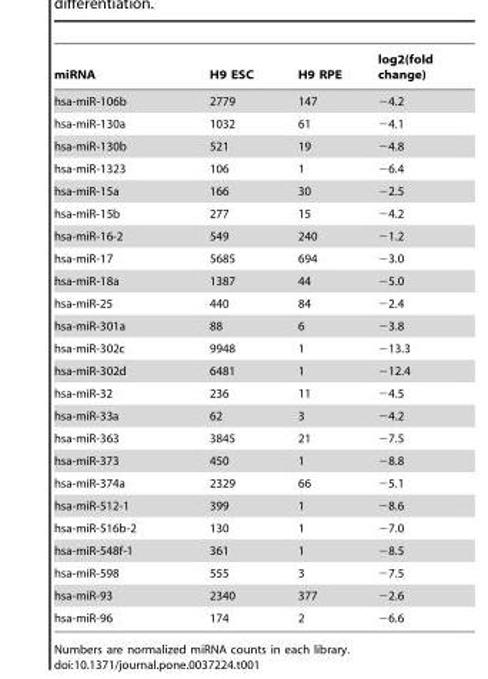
<table><thead><tr><td>miRNA</td><td>H9 ESC</td><td>H9 RPE</td><td>log2(fold change)</td></tr></thead><tbody><tr><td>hsa-miR-106b</td><td>2779</td><td>147</td><td>−4.2</td></tr><tr><td>hsa-miR-130a</td><td>1032</td><td>61</td><td>−4.1</td></tr><tr><td>hsa-miR-130b</td><td>521</td><td>19</td><td>−4.8</td></tr><tr><td>hsa-miR-1323</td><td>106</td><td>1</td><td>−6.4</td></tr><tr><td>hsa-miR-15a</td><td>166</td><td>30</td><td>−2.5</td></tr><tr><td>hsa-miR-15b</td><td>277</td><td>15</td><td>−4.2</td></tr><tr><td>hsa-miR-16-2</td><td>549</td><td>240</td><td>−1.2</td></tr><tr><td>hsa-miR-17</td><td>5685</td><td>694</td><td>−3.0</td></tr><tr><td>hsa-miR-18a</td><td>1387</td><td>44</td><td>−5.0</td></tr><tr><td>hsa-miR-25</td><td>440</td><td>84</td><td>−2.4</td></tr><tr><td>hsa-miR-301a</td><td>88</td><td>6</td><td>−3.8</td></tr><tr><td>hsa-miR-302c</td><td>9948</td><td>1</td><td>−13.3</td></tr><tr><td>hsa-miR-302d</td><td>6481</td><td>1</td><td>−12.4</td></tr><tr><td>hsa-miR-32</td><td>236</td><td>11</td><td>−4.5</td></tr><tr><td>hsa-miR-33a</td><td>62</td><td>3</td><td>−4.2</td></tr><tr><td>hsa-miR-363</td><td>3845</td><td>21</td><td>−7.5</td></tr><tr><td>hsa-miR-373</td><td>450</td><td>1</td><td>−8.8</td></tr><tr><td>hsa-miR-374a</td><td>2329</td><td>66</td><td>−5.1</td></tr><tr><td>hsa-miR-512-1</td><td>399</td><td>1</td><td>−8.6</td></tr><tr><td>hsa-miR-516b-2</td><td>130</td><td>1</td><td>−7.0</td></tr><tr><td>hsa-miR-548f-1</td><td>361</td><td>1</td><td>−8.5</td></tr><tr><td>hsa-miR-598</td><td>555</td><td>3</td><td>−7.5</td></tr><tr><td>hsa-miR-93</td><td>2340</td><td>377</td><td>−2.6</td></tr><tr><td>hsa-miR-96</td><td>174</td><td>2</td><td>−6.6</td></tr></tbody></table>